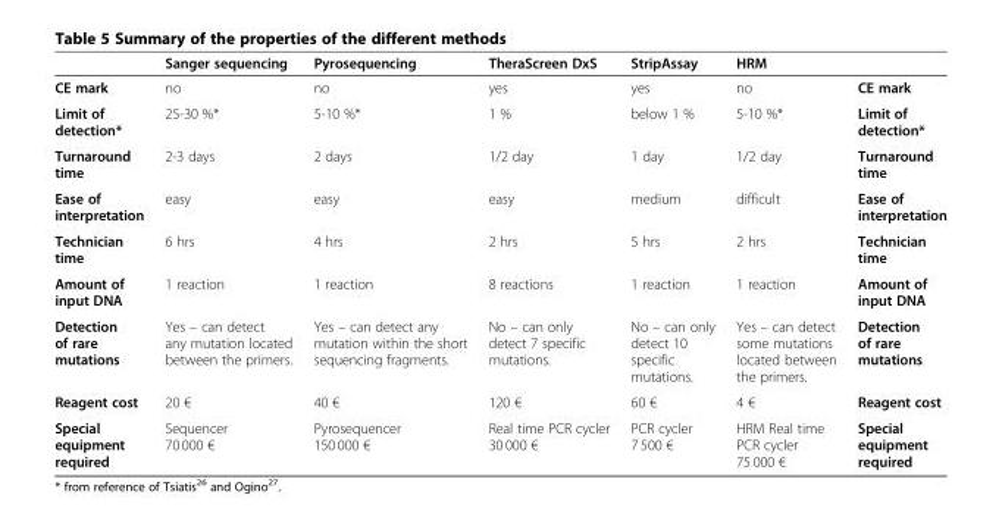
<table><thead><tr><td></td><td>Sanger sequencing</td><td>Pyrosequencing</td><td>TheraScreen DxS</td><td>StripAssay</td><td>HRM</td><td></td></tr></thead><tbody><tr><td>CE mark</td><td>no</td><td>no</td><td>yes</td><td>yes</td><td>no</td><td>CE mark</td></tr><tr><td>Limit of detection*</td><td>25-30 %*</td><td>5-10 %*</td><td>1 %</td><td>below 1 %</td><td>5-10 %*</td><td>Limit of detection*</td></tr><tr><td>Turnaround time</td><td>2-3 days</td><td>2 days</td><td>1/2 day</td><td>1 day</td><td>1/2 day</td><td>Turnaround time</td></tr><tr><td>Ease of interpretation</td><td>easy</td><td>easy</td><td>easy</td><td>medium</td><td>difficult</td><td>Ease of interpretation</td></tr><tr><td>Technician time</td><td>6 hrs</td><td>4 hrs</td><td>2 hrs</td><td>5 hrs</td><td>2 hrs</td><td>Technician time</td></tr><tr><td>Amount of input DNA</td><td>1 reaction</td><td>1 reaction</td><td>8 reactions</td><td>1 reaction</td><td>1 reaction</td><td>Amount of input DNA</td></tr><tr><td>Detection of rare mutations</td><td>Yes – can detect any mutation located between the primers.</td><td>Yes – can detect any mutation within the short sequencing fragments.</td><td>No – can only detect 7 specific mutations.</td><td>No – can only detect 10 specific mutations.</td><td>Yes – can detect some mutations located between the primers.</td><td>Detection of rare mutations</td></tr><tr><td>Reagent cost</td><td>20 €</td><td>40 €</td><td>120 €</td><td>60 €</td><td>4 €</td><td>Reagent cost</td></tr><tr><td>Special equipment required</td><td>Sequencer 70 000 €</td><td>Pyrosequencer 150 000 €</td><td>Real time PCR cycler 30 000 €</td><td>PCR cycler 7 500 €</td><td>HRM Real time PCR cycler 75 000 €</td><td>Special equipment required</td></tr></tbody></table>